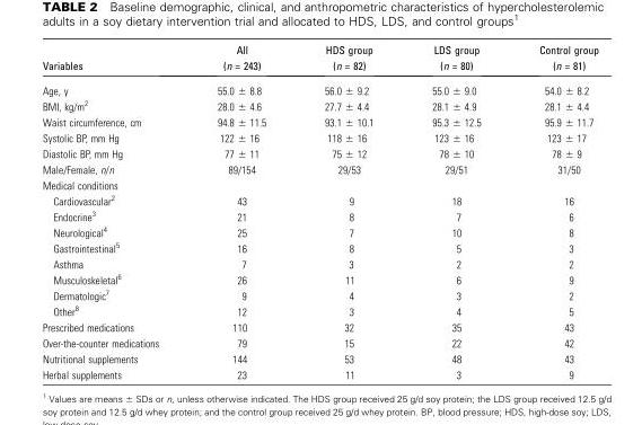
<table><thead><tr><td>Variables</td><td>All (n = 243)</td><td>HDS group (n = 82)</td><td>LDS group (n = 80)</td><td>Control group (n = 81)</td></tr></thead><tbody><tr><td>Age, y</td><td>55.0 ± 8.8</td><td>56.0 ± 9.2</td><td>55.0 ± 9.0</td><td>54.0 ± 8.2</td></tr><tr><td>BMI, kg/m<sup>2</sup></td><td>28.0 ± 4.6</td><td>27.7 ± 4.4</td><td>28.1 ± 4.9</td><td>28.1 ± 4.4</td></tr><tr><td>Waist circumference, cm</td><td>94.8 ± 11.5</td><td>93.1 ± 10.1</td><td>95.3 ± 12.5</td><td>95.9 ± 11.7</td></tr><tr><td>Systolic BP, mm Hg</td><td>122 ± 16</td><td>118 ± 16</td><td>123 ± 16</td><td>123 ± 17</td></tr><tr><td>Diastolic BP, mm Hg</td><td>77 ± 11</td><td>75 ± 12</td><td>78 ± 10</td><td>78 ± 9</td></tr><tr><td>Male/Female, n/n</td><td>89/154</td><td>29/53</td><td>29/51</td><td>31/50</td></tr><tr><td colspan="5">Medical conditions</td></tr><tr><td>Cardiovascular<sup>2</sup></td><td>43</td><td>9</td><td>18</td><td>16</td></tr><tr><td>Endocrine<sup>3</sup></td><td>21</td><td>8</td><td>7</td><td>6</td></tr><tr><td>Neurological<sup>4</sup></td><td>25</td><td>7</td><td>10</td><td>8</td></tr><tr><td>Gastrointestinal<sup>5</sup></td><td>16</td><td>8</td><td>5</td><td>3</td></tr><tr><td>Asthma</td><td>7</td><td>3</td><td>2</td><td>2</td></tr><tr><td>Musculoskeletal<sup>6</sup></td><td>26</td><td>11</td><td>6</td><td>9</td></tr><tr><td>Dermatologic<sup>7</sup></td><td>9</td><td>4</td><td>3</td><td>2</td></tr><tr><td>Other<sup>8</sup></td><td>12</td><td>3</td><td>4</td><td>5</td></tr><tr><td>Prescribed medications</td><td>110</td><td>32</td><td>35</td><td>43</td></tr><tr><td>Over-the-counter medications</td><td>79</td><td>15</td><td>22</td><td>42</td></tr><tr><td>Nutritional supplements</td><td>144</td><td>53</td><td>48</td><td>43</td></tr><tr><td>Herbal supplements</td><td>23</td><td>11</td><td>3</td><td>9</td></tr></tbody></table>